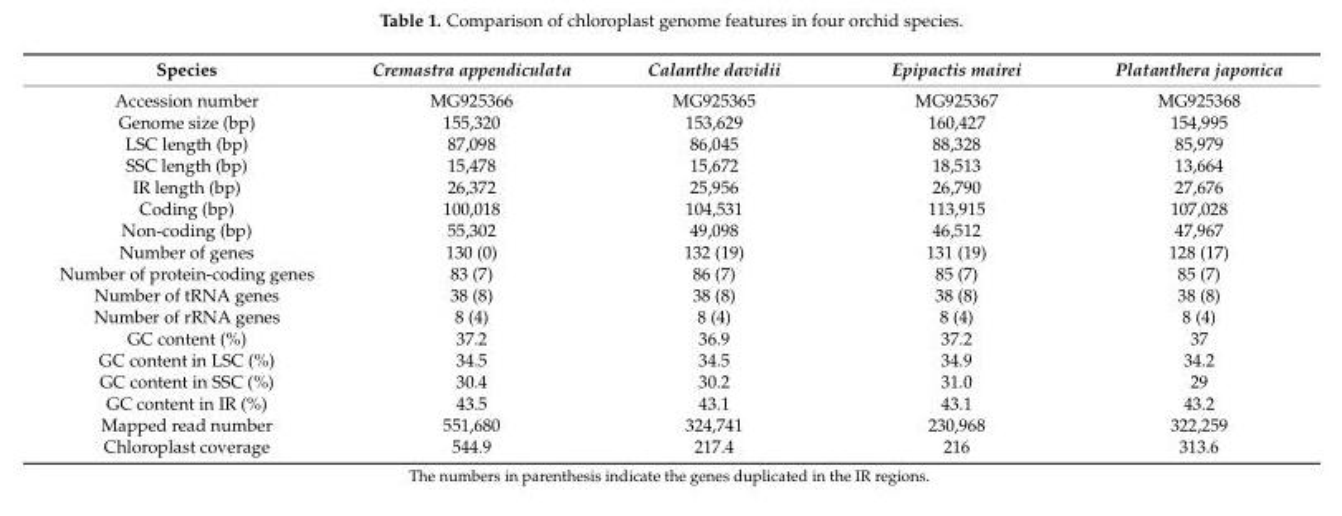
<table><thead><tr><td>Species</td><td>Cremastra appendiculata</td><td>Calanthe davidii</td><td>Epipactis mairei</td><td>Platanthera japonica</td></tr></thead><tbody><tr><td>Accession number</td><td>MG925366</td><td>MG925365</td><td>MG925367</td><td>MG925368</td></tr><tr><td>Genome size (bp)</td><td>155,320</td><td>153,629</td><td>160,427</td><td>154,995</td></tr><tr><td>LSC length (bp)</td><td>87,098</td><td>86,045</td><td>88,328</td><td>85,979</td></tr><tr><td>SSC length (bp)</td><td>15,478</td><td>15,672</td><td>18,513</td><td>13,664</td></tr><tr><td>IR length (bp)</td><td>26,372</td><td>25,956</td><td>26,790</td><td>27,676</td></tr><tr><td>Coding (bp)</td><td>100,018</td><td>104,531</td><td>113,915</td><td>107,028</td></tr><tr><td>Non-coding (bp)</td><td>55,302</td><td>49,098</td><td>46,512</td><td>47,967</td></tr><tr><td>Number of genes</td><td>130 (0)</td><td>132 (19)</td><td>131 (19)</td><td>128 (17)</td></tr><tr><td>Number of protein-coding genes</td><td>83 (7)</td><td>86 (7)</td><td>85 (7)</td><td>85 (7)</td></tr><tr><td>Number of tRNA genes</td><td>38 (8)</td><td>38 (8)</td><td>38 (8)</td><td>38 (8)</td></tr><tr><td>Number of rRNA genes</td><td>8 (4)</td><td>8 (4)</td><td>8 (4)</td><td>8 (4)</td></tr><tr><td>GC content (%)</td><td>37.2</td><td>36.9</td><td>37.2</td><td>37</td></tr><tr><td>GC content in LSC (%)</td><td>34.5</td><td>34.5</td><td>34.9</td><td>34.2</td></tr><tr><td>GC content in SSC (%)</td><td>30.4</td><td>30.2</td><td>31.0</td><td>29</td></tr><tr><td>GC content in IR (%)</td><td>43.5</td><td>43.1</td><td>43.1</td><td>43.2</td></tr><tr><td>Mapped read number</td><td>551,680</td><td>324,741</td><td>230,968</td><td>322,259</td></tr><tr><td>Chloroplast coverage</td><td>544.9</td><td>217.4</td><td>216</td><td>313.6</td></tr></tbody></table>